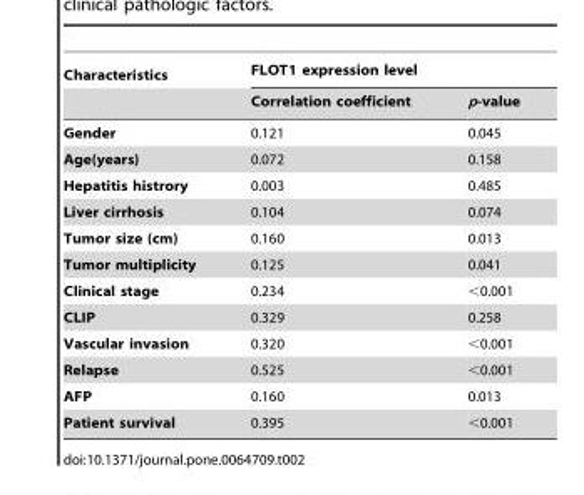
<table><thead><tr><td rowspan="2">Characteristics</td><td colspan="2">FLOT1 expression level</td></tr><tr><td>Correlation coefficient</td><td>p-value</td></tr></thead><tbody><tr><td>Gender</td><td>0.121</td><td>0.045</td></tr><tr><td>Age(years)</td><td>0.072</td><td>0.158</td></tr><tr><td>Hepatitis histrory</td><td>0.003</td><td>0.485</td></tr><tr><td>Liver cirrhosis</td><td>0.104</td><td>0.074</td></tr><tr><td>Tumor size (cm)</td><td>0.160</td><td>0.013</td></tr><tr><td>Tumor multiplicity</td><td>0.125</td><td>0.041</td></tr><tr><td>Clinical stage</td><td>0.234</td><td>&lt;0.001</td></tr><tr><td>CLIP</td><td>0.329</td><td>0.258</td></tr><tr><td>Vascular invasion</td><td>0.320</td><td>&lt;0.001</td></tr><tr><td>Relapse</td><td>0.525</td><td>&lt;0.001</td></tr><tr><td>AFP</td><td>0.160</td><td>0.013</td></tr><tr><td>Patient survival</td><td>0.395</td><td>&lt;0.001</td></tr></tbody></table>